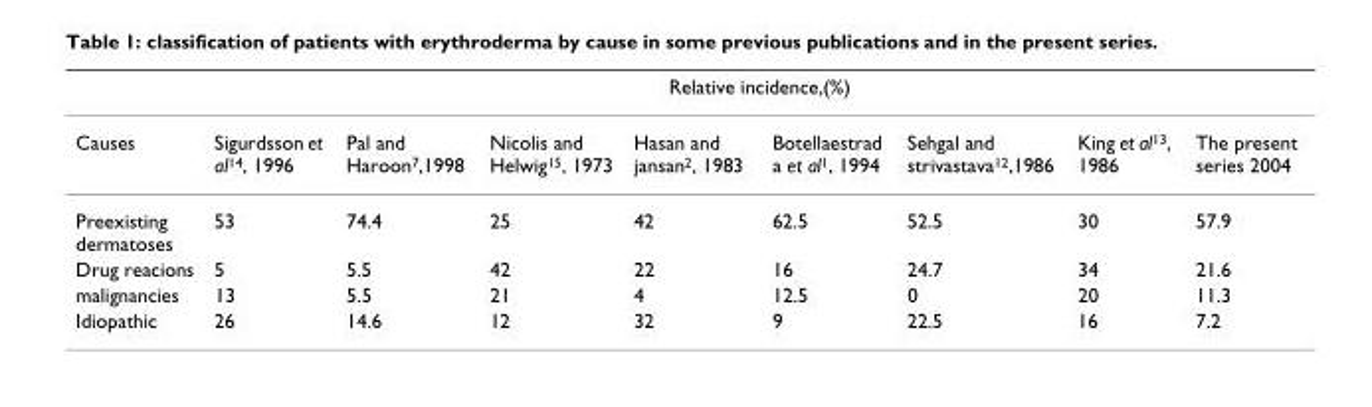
<table><thead><tr><td rowspan="2">Causes</td><td colspan="8">Relative incidence,(%)</td></tr><tr><td>Sigurdsson et al<sup>14</sup>, 1996</td><td>Pal and Haroon<sup>7</sup>,1998</td><td>Nicolis and Helwig<sup>15</sup>, 1973</td><td>Hasan and jansan<sup>2</sup>, 1983</td><td>Botellaestrad a et al<sup>1</sup>, 1994</td><td>Sehgal and strivastava<sup>12</sup>,1986</td><td>King et al<sup>13</sup>, 1986</td><td>The present series 2004</td></tr></thead><tbody><tr><td>Preexisting dermatoses</td><td>53</td><td>74.4</td><td>25</td><td>42</td><td>62.5</td><td>52.5</td><td>30</td><td>57.9</td></tr><tr><td>Drug reacions</td><td>5</td><td>5.5</td><td>42</td><td>22</td><td>16</td><td>24.7</td><td>34</td><td>21.6</td></tr><tr><td>malignancies</td><td>13</td><td>5.5</td><td>21</td><td>4</td><td>12.5</td><td>0</td><td>20</td><td>11.3</td></tr><tr><td>Idiopathic</td><td>26</td><td>14.6</td><td>12</td><td>32</td><td>9</td><td>22.5</td><td>16</td><td>7.2</td></tr></tbody></table>